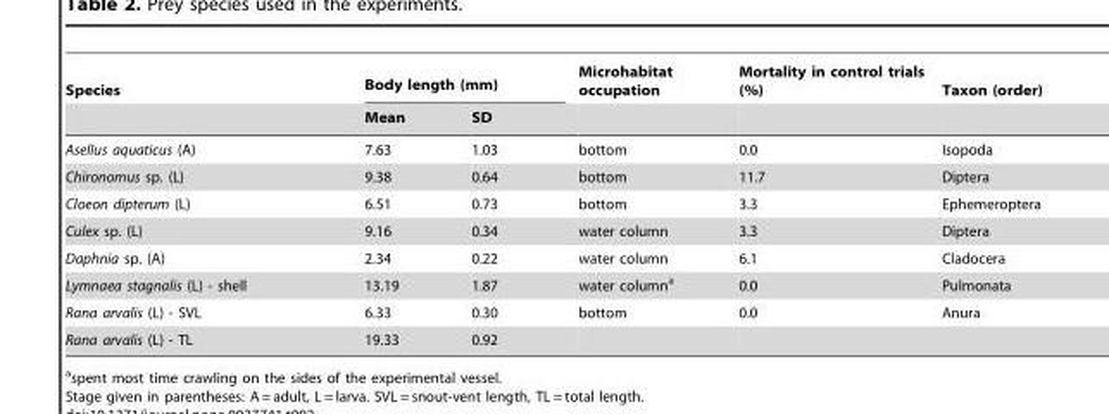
<table><thead><tr><td rowspan="2">Species</td><td colspan="2">Body length (mm)</td><td rowspan="2">Microhabitat occupation</td><td rowspan="2">Mortality in control trials (%)</td><td rowspan="2">Taxon (order)</td></tr><tr><td>Mean</td><td>SD</td></tr></thead><tbody><tr><td>Asellus aquaticus (A)</td><td>7.63</td><td>1.03</td><td>bottom</td><td>0.0</td><td>Isopoda</td></tr><tr><td>Chironomus sp. (L)</td><td>9.38</td><td>0.64</td><td>bottom</td><td>11.7</td><td>Diptera</td></tr><tr><td>Cloeon dipterum (L)</td><td>6.51</td><td>0.73</td><td>bottom</td><td>3.3</td><td>Ephemeroptera</td></tr><tr><td>Culex sp. (L)</td><td>9.16</td><td>0.34</td><td>water column</td><td>3.3</td><td>Diptera</td></tr><tr><td>Daphnia sp. (A)</td><td>2.34</td><td>0.22</td><td>water column</td><td>6.1</td><td>Cladocera</td></tr><tr><td>Lymnaea stagnalis (L) - shell</td><td>13.19</td><td>1.87</td><td>water column<sup>a</sup></td><td>0.0</td><td>Pulmonata</td></tr><tr><td>Rana arvalis (L) - SVL</td><td>6.33</td><td>0.30</td><td>bottom</td><td>0.0</td><td>Anura</td></tr><tr><td>Rana arvalis (L) - TL</td><td>19.33</td><td>0.92</td><td></td><td></td><td></td></tr></tbody></table>